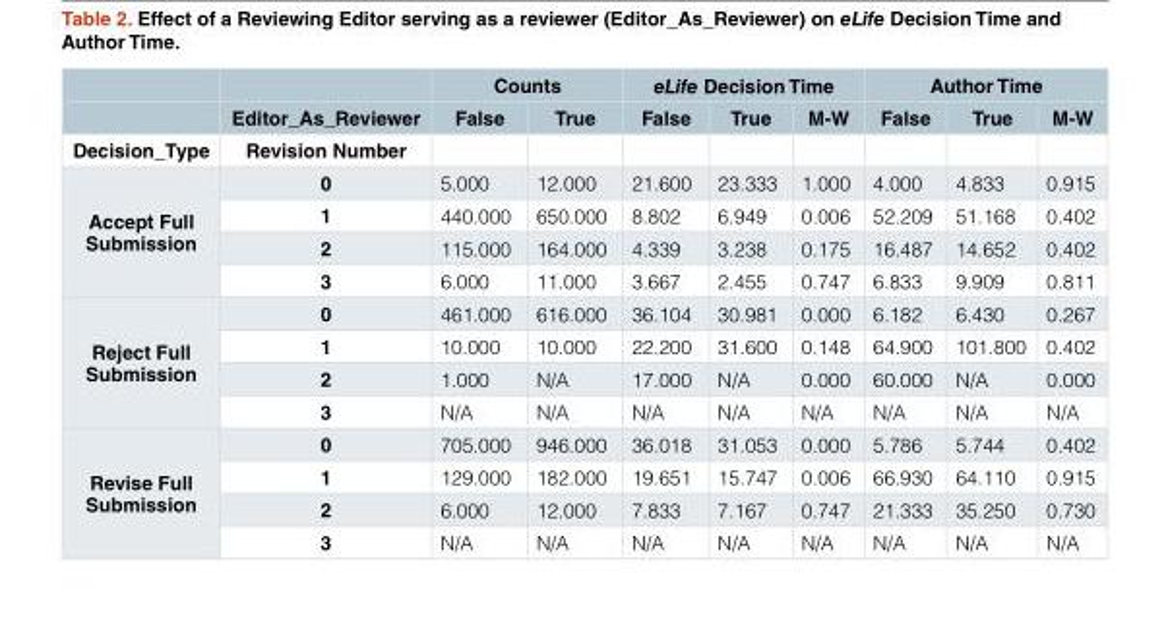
<table><thead><tr><td rowspan="3">Decision_Type</td><td rowspan="3">Editor_As_Reviewer Revision Number</td><td colspan="2">Counts</td><td colspan="3">eLife Decision Time</td><td colspan="3">Author Time</td></tr><tr><td rowspan="2">False</td><td rowspan="2">True</td><td rowspan="2">False</td><td rowspan="2">True</td><td rowspan="2">M-W</td><td rowspan="2">False</td><td rowspan="2">True</td><td rowspan="2">M-W</td></tr><tr></tr></thead><tbody><tr><td rowspan="4">Accept Full Submission</td><td>0</td><td>5.000</td><td>12.000</td><td>21.600</td><td>23.333</td><td>1.000</td><td>4.000</td><td>4.833</td><td>0.915</td></tr><tr><td>1</td><td>440.000</td><td>650.000</td><td>8.802</td><td>6.949</td><td>0.006</td><td>52.209</td><td>51.168</td><td>0.402</td></tr><tr><td>2</td><td>115.000</td><td>164.000</td><td>4.339</td><td>3.238</td><td>0.175</td><td>16.487</td><td>14.652</td><td>0.402</td></tr><tr><td>3</td><td>6.000</td><td>11.000</td><td>3.667</td><td>2.455</td><td>0.747</td><td>6.833</td><td>9.909</td><td>0.811</td></tr><tr><td rowspan="4">Reject Full Submission</td><td>0</td><td>461.000</td><td>616.000</td><td>36.104</td><td>30.981</td><td>0.000</td><td>6.182</td><td>6.430</td><td>0.267</td></tr><tr><td>1</td><td>10.000</td><td>10.000</td><td>22.200</td><td>31.600</td><td>0.148</td><td>64.900</td><td>101.800</td><td>0.402</td></tr><tr><td>2</td><td>1.000</td><td>N/A</td><td>17.000</td><td>N/A</td><td>0.000</td><td>60.000</td><td>N/A</td><td>0.000</td></tr><tr><td>3</td><td>N/A</td><td>N/A</td><td>N/A</td><td>N/A</td><td>N/A</td><td>N/A</td><td>N/A</td><td>N/A</td></tr><tr><td rowspan="4">Revise Full Submission</td><td>0</td><td>705.000</td><td>946.000</td><td>36.018</td><td>31.053</td><td>0.000</td><td>5.786</td><td>5.744</td><td>0.402</td></tr><tr><td>1</td><td>129.000</td><td>182.000</td><td>19.651</td><td>15.747</td><td>0.006</td><td>66.930</td><td>64.110</td><td>0.915</td></tr><tr><td>2</td><td>6.000</td><td>12.000</td><td>7.833</td><td>7.167</td><td>0.747</td><td>21.333</td><td>35.250</td><td>0.730</td></tr><tr><td>3</td><td>N/A</td><td>N/A</td><td>N/A</td><td>N/A</td><td>N/A</td><td>N/A</td><td>N/A</td><td>N/A</td></tr></tbody></table>